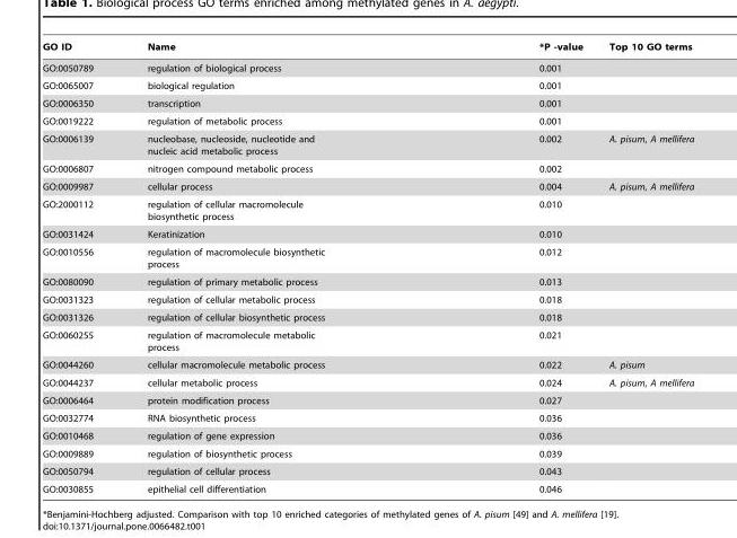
<table><thead><tr><td>GO ID</td><td>Name</td><td>*P -value</td><td>Top 10 GO terms</td></tr></thead><tbody><tr><td>GO:0050789</td><td>regulation of biological process</td><td>0.001</td><td></td></tr><tr><td>GO:0065007</td><td>biological regulation</td><td>0.001</td><td></td></tr><tr><td>GO:0006350</td><td>transcription</td><td>0.001</td><td></td></tr><tr><td>GO:0019222</td><td>regulation of metabolic process</td><td>0.001</td><td></td></tr><tr><td>GO:0006139</td><td>nucleobase, nucleoside, nucleotide and nucleic acid metabolic process</td><td>0.002</td><td>A. pisum, A mellifera</td></tr><tr><td>GO:0006807</td><td>nitrogen compound metabolic process</td><td>0.002</td><td></td></tr><tr><td>GO:0009987</td><td>cellular process</td><td>0.004</td><td>A. pisum, A mellifera</td></tr><tr><td>GO:2000112</td><td>regulation of cellular macromolecule biosynthetic process</td><td>0.010</td><td></td></tr><tr><td>GO:0031424</td><td>Keratinization</td><td>0.010</td><td></td></tr><tr><td>GO:0010556</td><td>regulation of macromolecule biosynthetic process</td><td>0.012</td><td></td></tr><tr><td>GO:0080090</td><td>regulation of primary metabolic process</td><td>0.013</td><td></td></tr><tr><td>GO:0031323</td><td>regulation of cellular metabolic process</td><td>0.018</td><td></td></tr><tr><td>GO:0031326</td><td>regulation of cellular biosynthetic process</td><td>0.018</td><td></td></tr><tr><td>GO:0060255</td><td>regulation of macromolecule metabolic process</td><td>0.021</td><td></td></tr><tr><td>GO:0044260</td><td>cellular macromolecule metabolic process</td><td>0.022</td><td>A. pisum</td></tr><tr><td>GO:0044237</td><td>cellular metabolic process</td><td>0.024</td><td>A. pisum, A mellifera</td></tr><tr><td>GO:0006464</td><td>protein modification process</td><td>0.027</td><td></td></tr><tr><td>GO:0032774</td><td>RNA biosynthetic process</td><td>0.036</td><td></td></tr><tr><td>GO:0010468</td><td>regulation of gene expression</td><td>0.036</td><td></td></tr><tr><td>GO:0009889</td><td>regulation of biosynthetic process</td><td>0.039</td><td></td></tr><tr><td>GO:0050794</td><td>regulation of cellular process</td><td>0.043</td><td></td></tr><tr><td>GO:0030855</td><td>epithelial cell differentiation</td><td>0.046</td><td></td></tr></tbody></table>